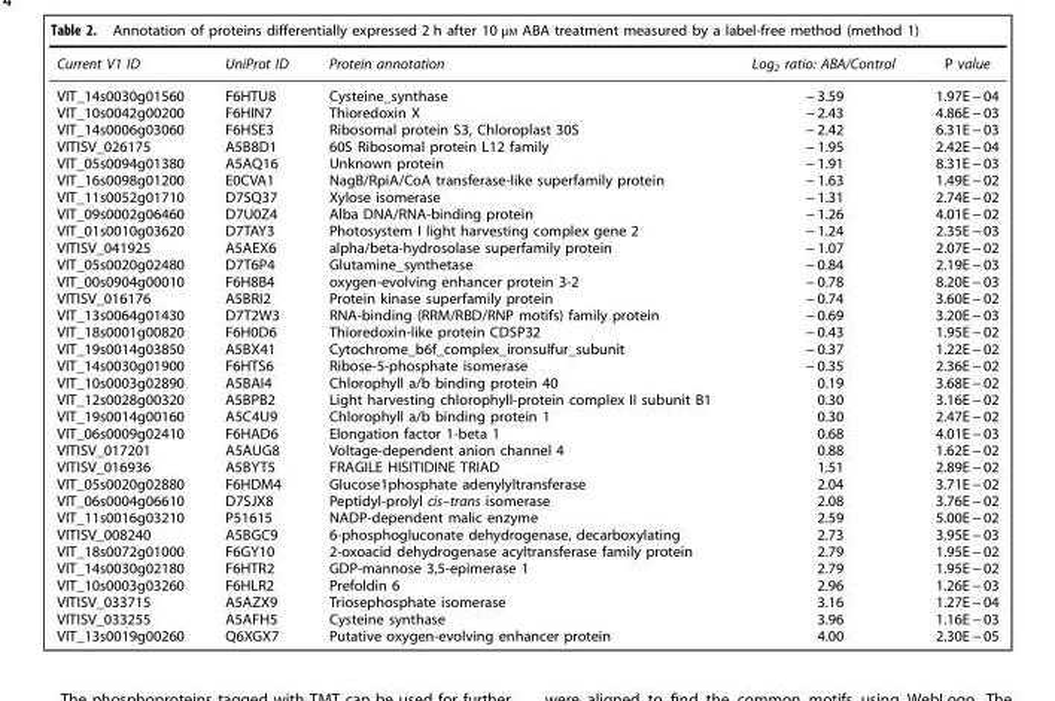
<table><thead><tr><td>Current V1 ID</td><td>UniProt ID</td><td>Protein annotation</td><td>Log<sub>2</sub> ratio: ABA/Control</td><td>P value</td></tr></thead><tbody><tr><td>VIT_14s0030g01560</td><td>F6HTU8</td><td>Cysteine_synthase</td><td>− 3.59</td><td>1.97E − 04</td></tr><tr><td>VIT_10s0042g00200</td><td>F6HIN7</td><td>Thioredoxin X</td><td>− 2.43</td><td>4.86E − 03</td></tr><tr><td>VIT_14s0006g03060</td><td>F6HSE3</td><td>Ribosomal protein S3, Chloroplast 30S</td><td>− 2.42</td><td>6.31E − 03</td></tr><tr><td>VITISV_026175</td><td>A5B8D1</td><td>60S Ribosomal protein L12 family</td><td>− 1.95</td><td>2.42E − 04</td></tr><tr><td>VIT_05s0094g01380</td><td>A5AQ16</td><td>Unknown protein</td><td>− 1.91</td><td>8.31E − 03</td></tr><tr><td>VIT_16s0098g01200</td><td>E0CVA1</td><td>NagB/RpiA/CoA transferase-like superfamily protein</td><td>− 1.63</td><td>1.49E − 02</td></tr><tr><td>VIT_11s0052g01710</td><td>D7SQ37</td><td>Xylose isomerase</td><td>− 1.31</td><td>2.74E − 02</td></tr><tr><td>VIT_09s0002g06460</td><td>D7U0Z4</td><td>Alba DNA/RNA-binding protein</td><td>− 1.26</td><td>4.01E − 02</td></tr><tr><td>VIT_01s0010g03620</td><td>D7TAY3</td><td>Photosystem I light harvesting complex gene 2</td><td>− 1.24</td><td>2.35E − 03</td></tr><tr><td>VITISV_041925</td><td>A5AEX6</td><td>alpha/beta-hydrosolase superfamily protein</td><td>− 1.07</td><td>2.07E − 02</td></tr><tr><td>VIT_05s0020g02480</td><td>D7T6P4</td><td>Glutamine_synthetase</td><td>− 0.84</td><td>2.19E − 03</td></tr><tr><td>VIT_00s0904g00010</td><td>F6H8B4</td><td>oxygen-evolving enhancer protein 3-2</td><td>− 0.78</td><td>8.20E − 03</td></tr><tr><td>VITISV_016176</td><td>A5BRI2</td><td>Protein kinase superfamily protein</td><td>− 0.74</td><td>3.60E − 02</td></tr><tr><td>VIT_13s0064g01430</td><td>D7T2W3</td><td>RNA-binding (RRM/RBD/RNP motifs) family protein</td><td>− 0.69</td><td>3.20E − 03</td></tr><tr><td>VIT_18s0001g00820</td><td>F6H0D6</td><td>Thioredoxin-like protein CDSP32</td><td>− 0.43</td><td>1.95E − 02</td></tr><tr><td>VIT_19s0014g03850</td><td>A5BX41</td><td>Cytochrome_b6f_complex_ironsulfur_subunit</td><td>− 0.37</td><td>1.22E − 02</td></tr><tr><td>VIT_14s0030g01900</td><td>F6HTS6</td><td>Ribose-5-phosphate isomerase</td><td>− 0.35</td><td>2.36E − 02</td></tr><tr><td>VIT_10s0003g02890</td><td>A5BAI4</td><td>Chlorophyll a/b binding protein 40</td><td>0.19</td><td>3.68E − 02</td></tr><tr><td>VIT_12s0028g00320</td><td>A5BPB2</td><td>Light harvesting chlorophyll-protein complex II subunit B1</td><td>0.30</td><td>3.16E − 02</td></tr><tr><td>VIT_19s0014g00160</td><td>A5C4U9</td><td>Chlorophyll a/b binding protein 1</td><td>0.30</td><td>2.47E − 02</td></tr><tr><td>VIT_06s0009g02410</td><td>F6HAD6</td><td>Elongation factor 1-beta 1</td><td>0.68</td><td>4.01E − 03</td></tr><tr><td>VITISV_017201</td><td>A5AUG8</td><td>Voltage-dependent anion channel 4</td><td>0.88</td><td>1.62E − 02</td></tr><tr><td>VITISV_016936</td><td>A5BYT5</td><td>FRAGILE HISITIDINE TRIAD</td><td>1.51</td><td>2.89E − 02</td></tr><tr><td>VIT_05s0020g02880</td><td>F6HDM4</td><td>Glucose1phosphate adenylyltransferase</td><td>2.04</td><td>3.71E − 02</td></tr><tr><td>VIT_06s0004g06610</td><td>D7SJX8</td><td>Peptidyl-prolyl cis–trans isomerase</td><td>2.08</td><td>3.76E − 02</td></tr><tr><td>VIT_11s0016g03210</td><td>P51615</td><td>NADP-dependent malic enzyme</td><td>2.59</td><td>5.00E − 02</td></tr><tr><td>VITISV_008240</td><td>A5BGC9</td><td>6-phosphogluconate dehydrogenase, decarboxylating</td><td>2.73</td><td>3.95E − 03</td></tr><tr><td>VIT_18s0072g01000</td><td>F6GY10</td><td>2-oxoacid dehydrogenase acyltransferase family protein</td><td>2.79</td><td>1.95E − 02</td></tr><tr><td>VIT_14s0030g02180</td><td>F6HTR2</td><td>GDP-mannose 3,5-epimerase 1</td><td>2.79</td><td>1.95E − 02</td></tr><tr><td>VIT_10s0003g03260</td><td>F6HLR2</td><td>Prefoldin 6</td><td>2.96</td><td>1.26E − 03</td></tr><tr><td>VITISV_033715</td><td>A5AZX9</td><td>Triosephosphate isomerase</td><td>3.16</td><td>1.27E − 04</td></tr><tr><td>VITISV_033255</td><td>A5AFH5</td><td>Cysteine synthase</td><td>3.96</td><td>1.16E − 03</td></tr><tr><td>VIT_13s0019g00260</td><td>Q6XGX7</td><td>Putative oxygen-evolving enhancer protein</td><td>4.00</td><td>2.30E − 05</td></tr></tbody></table>